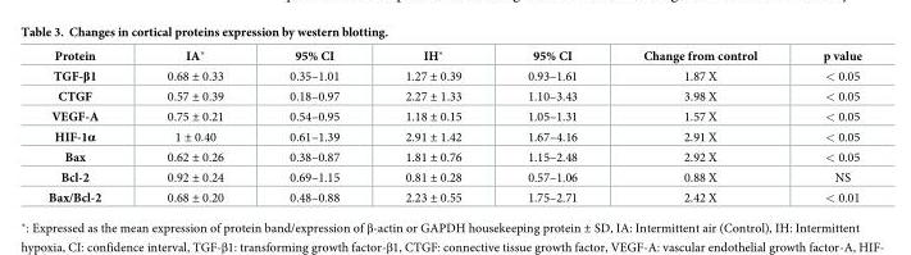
<table><thead><tr><td>Protein</td><td>IA*</td><td>95% CI</td><td>IH*</td><td>95% CI</td><td>Change from control</td><td>p value</td></tr></thead><tbody><tr><td>TGF-β1</td><td>0.68 ± 0.33</td><td>0.35–1.01</td><td>1.27 ± 0.39</td><td>0.93–1.61</td><td>1.87 X</td><td>&lt; 0.05</td></tr><tr><td>CTGF</td><td>0.57 ± 0.39</td><td>0.18–0.97</td><td>2.27 ± 1.33</td><td>1.10–3.43</td><td>3.98 X</td><td>&lt; 0.05</td></tr><tr><td>VEGF-A</td><td>0.75 ± 0.21</td><td>0.54–0.95</td><td>1.18 ± 0.15</td><td>1.05–1.31</td><td>1.57 X</td><td>&lt; 0.05</td></tr><tr><td>HIF-1α</td><td>1 ± 0.40</td><td>0.61–1.39</td><td>2.91 ± 1.42</td><td>1.67–4.16</td><td>2.91 X</td><td>&lt; 0.05</td></tr><tr><td>Bax</td><td>0.62 ± 0.26</td><td>0.38–0.87</td><td>1.81 ± 0.76</td><td>1.15–2.48</td><td>2.92 X</td><td>&lt; 0.05</td></tr><tr><td>Bcl-2</td><td>0.92 ± 0.24</td><td>0.69–1.15</td><td>0.81 ± 0.28</td><td>0.57–1.06</td><td>0.88 X</td><td>NS</td></tr><tr><td>Bax/Bcl-2</td><td>0.68 ± 0.20</td><td>0.48–0.88</td><td>2.23 ± 0.55</td><td>1.75–2.71</td><td>2.42 X</td><td>&lt; 0.01</td></tr></tbody></table>